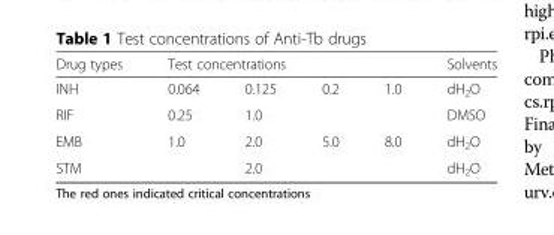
<table><thead><tr><td rowspan="2">Drug types INH</td><td colspan="4">Test concentrations</td><td rowspan="2">Solvents dH<sub>2</sub>O</td></tr><tr><td>0.064</td><td>0.125</td><td>0.2</td><td>1.0</td></tr></thead><tbody><tr><td>RIF</td><td>0.25</td><td>1.0</td><td></td><td></td><td>DMSO</td></tr><tr><td>EMB</td><td>1.0</td><td>2.0</td><td>5.0</td><td>8.0</td><td>dH<sub>2</sub>O</td></tr><tr><td>STM</td><td></td><td>2.0</td><td></td><td></td><td>dH<sub>2</sub>O</td></tr></tbody></table>